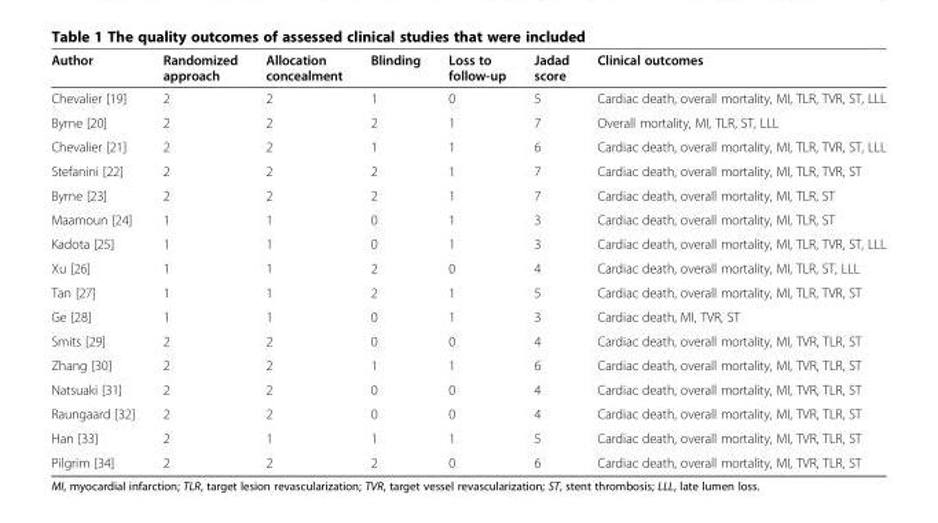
<table><thead><tr><td>Author</td><td>Randomized approach</td><td>Allocation concealment</td><td>Blinding</td><td>Loss to follow-up</td><td>Jadad score</td><td>Clinical outcomes</td></tr></thead><tbody><tr><td>Chevalier [19]</td><td>2</td><td>2</td><td>1</td><td>0</td><td>5</td><td>Cardiac death, overall mortality, MI, TLR, TVR, ST, LLL</td></tr><tr><td>Byrne [20]</td><td>2</td><td>2</td><td>2</td><td>1</td><td>7</td><td>Overall mortality, MI, TLR, ST, LLL</td></tr><tr><td>Chevalier [21]</td><td>2</td><td>2</td><td>1</td><td>1</td><td>6</td><td>Cardiac death, overall mortality, MI, TLR, TVR, ST, LLL</td></tr><tr><td>Stefanini [22]</td><td>2</td><td>2</td><td>2</td><td>1</td><td>7</td><td>Cardiac death, overall mortality, MI, TLR, TVR, ST</td></tr><tr><td>Byrne [23]</td><td>2</td><td>2</td><td>2</td><td>1</td><td>7</td><td>Cardiac death, overall mortality, MI, TLR, ST</td></tr><tr><td>Maamoun [24]</td><td>1</td><td>1</td><td>0</td><td>1</td><td>3</td><td>Cardiac death, overall mortality, MI, TLR, ST</td></tr><tr><td>Kadota [25]</td><td>1</td><td>1</td><td>0</td><td>1</td><td>3</td><td>Cardiac death, overall mortality, MI, TLR, TVR, ST, LLL</td></tr><tr><td>Xu [26]</td><td>1</td><td>1</td><td>2</td><td>0</td><td>4</td><td>Cardiac death, overall mortality, MI, TLR, ST, LLL</td></tr><tr><td>Tan [27]</td><td>1</td><td>1</td><td>2</td><td>1</td><td>5</td><td>Cardiac death, overall mortality, MI, TLR, TVR, ST</td></tr><tr><td>Ge [28]</td><td>1</td><td>1</td><td>0</td><td>1</td><td>3</td><td>Cardiac death, MI, TVR, ST</td></tr><tr><td>Smits [29]</td><td>2</td><td>2</td><td>0</td><td>0</td><td>4</td><td>Cardiac death, overall mortality, MI, TVR, TLR, ST</td></tr><tr><td>Zhang [30]</td><td>2</td><td>2</td><td>1</td><td>1</td><td>6</td><td>Cardiac death, overall mortality, MI, TVR, TLR, ST</td></tr><tr><td>Natsuaki [31]</td><td>2</td><td>2</td><td>0</td><td>0</td><td>4</td><td>Cardiac death, overall mortality, MI, TVR, TLR, ST</td></tr><tr><td>Raungaard [32]</td><td>2</td><td>2</td><td>0</td><td>0</td><td>4</td><td>Cardiac death, overall mortality, MI, TVR, TLR, ST</td></tr><tr><td>Han [33]</td><td>2</td><td>1</td><td>1</td><td>1</td><td>5</td><td>Cardiac death, overall mortality, MI, TVR, TLR, ST</td></tr><tr><td>Pilgrim [34]</td><td>2</td><td>2</td><td>2</td><td>0</td><td>6</td><td>Cardiac death, overall mortality, MI, TVR, TLR, ST</td></tr></tbody></table>